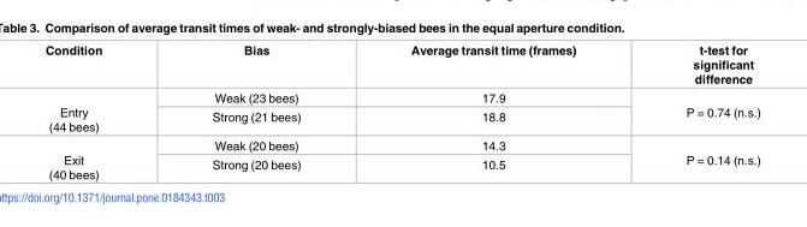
<table><thead><tr><td>Condition</td><td>Bias</td><td>Average transit time (frames)</td><td>t-test for significant difference</td></tr></thead><tbody><tr><td rowspan="2">Entry (44 bees)</td><td>Weak (23 bees)</td><td>17.9</td><td rowspan="2">P = 0.74 (n.s.)</td></tr><tr><td>Strong (21 bees)</td><td>18.8</td></tr><tr><td rowspan="2">Exit (40 bees)</td><td>Weak (20 bees)</td><td>14.3</td><td rowspan="2">P = 0.14 (n.s.)</td></tr><tr><td>Strong (20 bees)</td><td>10.5</td></tr></tbody></table>